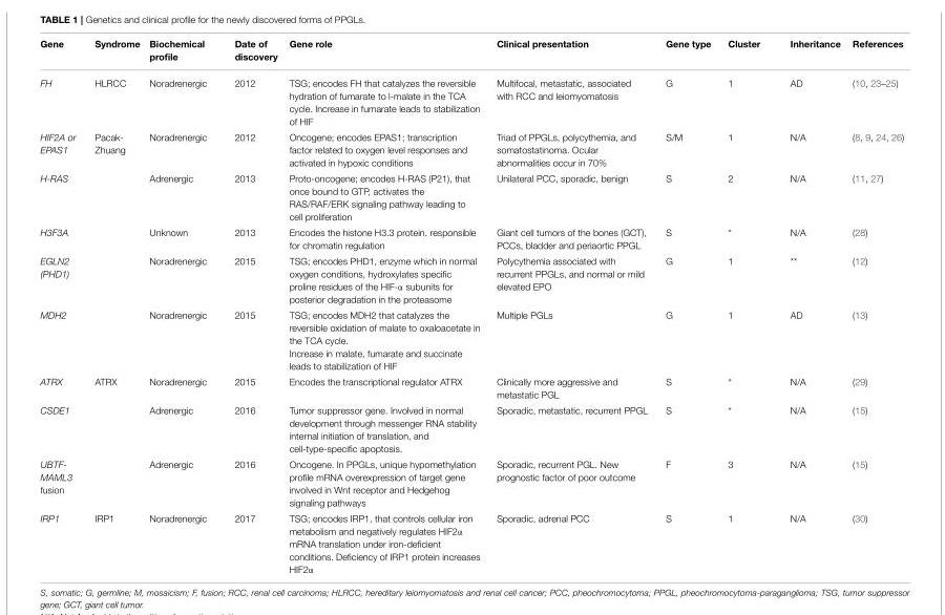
<table><thead><tr><td>Gene</td><td>Syndrome</td><td>Biochemical profile</td><td>Date of discovery</td><td>Gene role</td><td>Clinical presentation</td><td>Gene type</td><td>Cluster</td><td>Inheritance</td><td>References</td></tr></thead><tbody><tr><td>FH</td><td>HLRCC</td><td>Noradrenergic</td><td>2012</td><td>TSG; encodes FH that catalyzes the reversible hydration of fumarate to l-malate in the TCA cycle. Increase in fumarate leads to stabilization of HIF</td><td>Multifocal, metastatic, associated with RCC and leiomyomatosis</td><td>G</td><td>1</td><td>AD</td><td>(10, 23–25)</td></tr><tr><td>HIF2A or EPAS1</td><td>Pacak- Zhuang</td><td>Noradrenergic</td><td>2012</td><td>Oncogene; encodes EPAS1; transcription factor related to oxygen level responses and activated in hypoxic conditions</td><td>Triad of PPGLs, polycythemia, and somatostatinoma. Ocular abnormalities occur in 70%</td><td>S/M</td><td>1</td><td>N/A</td><td>(8, 9, 24, 26)</td></tr><tr><td>H-RAS</td><td></td><td>Adrenergic</td><td>2013</td><td>Proto-oncogene; encodes H-RAS (P21), that once bound to GTP, activates the RAS/RAF/ERK signaling pathway leading to cell proliferation</td><td>Unilateral PCC, sporadic, benign</td><td>S</td><td>2</td><td>N/A</td><td>(11, 27)</td></tr><tr><td>H3F3A</td><td></td><td>Unknown</td><td>2013</td><td>Encodes the histone H3.3 protein. responsible for chromatin regulation</td><td>Giant cell tumors of the bones (GCT), PCCs, bladder and periaortic PPGL</td><td>S</td><td>*</td><td>N/A</td><td>(28)</td></tr><tr><td>EGLN2 (PHD1)</td><td></td><td>Noradrenergic</td><td>2015</td><td>TSG; encodes PHD1, enzyme which in normal oxygen conditions, hydroxylates specific proline residues of the HIF-α subunits for posterior degradation in the proteasome</td><td>Polycythemia associated with recurrent PPGLs, and normal or mild elevated EPO</td><td>G</td><td>1</td><td>**</td><td>(12)</td></tr><tr><td>MDH2</td><td></td><td>Noradrenergic</td><td>2015</td><td>TSG; encodes MDH2 that catalyzes the reversible oxidation of malate to oxaloacetate in the TCA cycle. Increase in malate, fumarate and succinate leads to stabilization of HIF</td><td>Multiple PGLs</td><td>G</td><td>1</td><td>AD</td><td>(13)</td></tr><tr><td>ATRX</td><td>ATRX</td><td>Noradrenergic</td><td>2015</td><td>Encodes the transcriptional regulator ATRX</td><td>Clinically more aggressive and metastatic PGL</td><td>S</td><td>*</td><td>N/A</td><td>(29)</td></tr><tr><td>CSDE1</td><td></td><td>Adrenergic</td><td>2016</td><td>Tumor suppressor gene. Involved in normal development through messenger RNA stability internal initiation of translation, and cell-type-specific apoptosis.</td><td>Sporadic, metastatic, recurrent PPGL</td><td>S</td><td>*</td><td>N/A</td><td>(15)</td></tr><tr><td>UBTF- MAML3 fusion</td><td></td><td>Adrenergic</td><td>2016</td><td>Oncogene. In PPGLs, unique hypomethylation profile mRNA overexpression of target gene involved in Wnt receptor and Hedgehog signaling pathways</td><td>Sporadic, recurrent PGL. New prognostic factor of poor outcome</td><td>F</td><td>3</td><td>N/A</td><td>(15)</td></tr><tr><td>IRP1</td><td>IRP1</td><td>Noradrenergic</td><td>2017</td><td>TSG; encodes IRP1, that controls cellular iron metabolism and negatively regulates HIF2α mRNA translation under iron-deficient conditions. Deficiency of IRP1 protein increases HIF2α</td><td>Sporadic, adrenal PCC</td><td>S</td><td>1</td><td>N/A</td><td>(30)</td></tr></tbody></table>